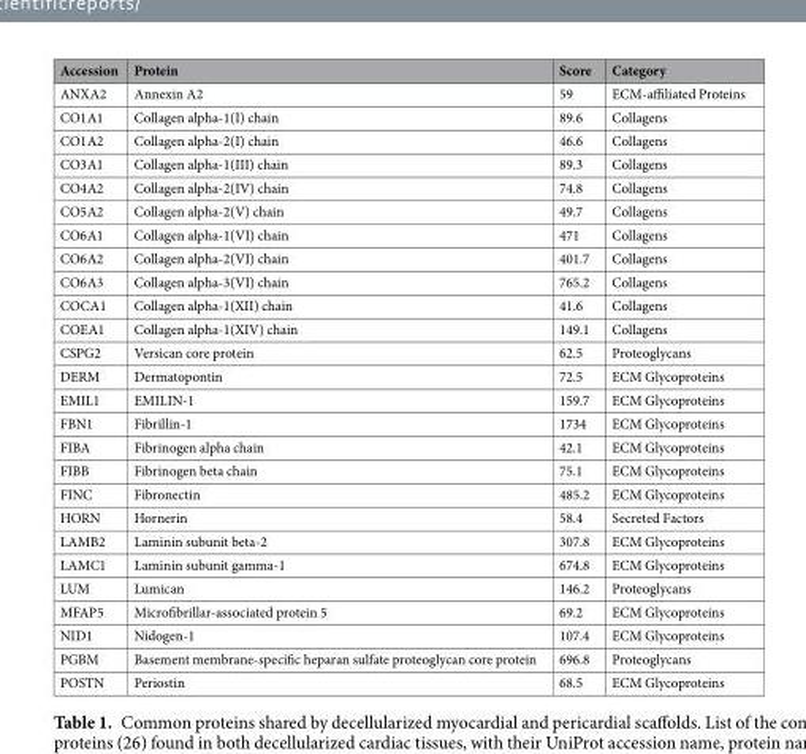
<table><thead><tr><td>Accession</td><td>Protein</td><td>Score</td><td>Category</td></tr></thead><tbody><tr><td>ANXA2</td><td>Annexin A2</td><td>59</td><td>ECM-affiliated Proteins</td></tr><tr><td>CO1A1</td><td>Collagen alpha-1(I) chain</td><td>89.6</td><td>Collagens</td></tr><tr><td>CO1A2</td><td>Collagen alpha-2(I) chain</td><td>46.6</td><td>Collagens</td></tr><tr><td>CO3A1</td><td>Collagen alpha-1(III) chain</td><td>89.3</td><td>Collagens</td></tr><tr><td>CO4A2</td><td>Collagen alpha-2(IV) chain</td><td>74.8</td><td>Collagens</td></tr><tr><td>CO5A2</td><td>Collagen alpha-2(V) chain</td><td>49.7</td><td>Collagens</td></tr><tr><td>CO6A1</td><td>Collagen alpha-1(VI) chain</td><td>471</td><td>Collagens</td></tr><tr><td>CO6A2</td><td>Collagen alpha-2(VI) chain</td><td>401.7</td><td>Collagens</td></tr><tr><td>CO6A3</td><td>Collagen alpha-3(VI) chain</td><td>765.2</td><td>Collagens</td></tr><tr><td>COCA1</td><td>Collagen alpha-1(XII) chain</td><td>41.6</td><td>Collagens</td></tr><tr><td>COEA1</td><td>Collagen alpha-1(XIV) chain</td><td>149.1</td><td>Collagens</td></tr><tr><td>CSPG2</td><td>Versican core protein</td><td>62.5</td><td>Proteoglycans</td></tr><tr><td>DERM</td><td>Dermatopontin</td><td>72.5</td><td>ECM Glycoproteins</td></tr><tr><td>EMIL1</td><td>EMILIN-1</td><td>159.7</td><td>ECM Glycoproteins</td></tr><tr><td>FBN1</td><td>Fibrillin-1</td><td>1734</td><td>ECM Glycoproteins</td></tr><tr><td>FIBA</td><td>Fibrinogen alpha chain</td><td>42.1</td><td>ECM Glycoproteins</td></tr><tr><td>FIBB</td><td>Fibrinogen beta chain</td><td>75.1</td><td>ECM Glycoproteins</td></tr><tr><td>FINC</td><td>Fibronectin</td><td>485.2</td><td>ECM Glycoproteins</td></tr><tr><td>HORN</td><td>Hornerin</td><td>58.4</td><td>Secreted Factors</td></tr><tr><td>LAMB2</td><td>Laminin subunit beta-2</td><td>307.8</td><td>ECM Glycoproteins</td></tr><tr><td>LAMC1</td><td>Laminin subunit gamma-1</td><td>674.8</td><td>ECM Glycoproteins</td></tr><tr><td>LUM</td><td>Lumican</td><td>146.2</td><td>Proteoglycans</td></tr><tr><td>MFAP5</td><td>Microfibrillar-associated protein 5</td><td>69.2</td><td>ECM Glycoproteins</td></tr><tr><td>NID1</td><td>Nidogen-1</td><td>107.4</td><td>ECM Glycoproteins</td></tr><tr><td>PGBM</td><td>Basement membrane-specific heparan sulfate proteoglycan core protein</td><td>696.8</td><td>Proteoglycans</td></tr><tr><td>POSTN</td><td>Periostin</td><td>68.5</td><td>ECM Glycoproteins</td></tr></tbody></table>